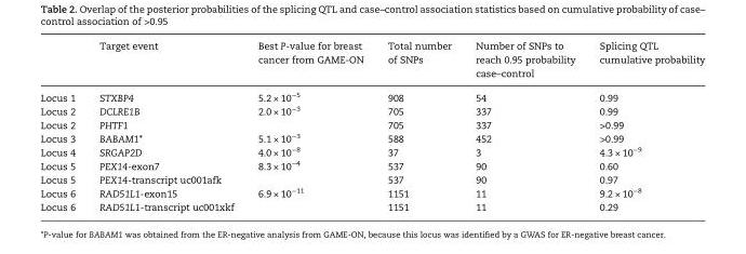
<table><thead><tr><td></td><td>Target event</td><td>Best P-value for breast cancer from GAME-ON</td><td>Total number of SNPs</td><td>Number of SNPs to reach 0.95 probability case–control</td><td>Splicing QTL cumulative probability</td></tr></thead><tbody><tr><td>Locus 1</td><td>STXBP4</td><td>5.2 × 10<sup>−5</sup></td><td>908</td><td>54</td><td>0.99</td></tr><tr><td>Locus 2</td><td>DCLRE1B</td><td>2.0 × 10<sup>−3</sup></td><td>705</td><td>337</td><td>0.99</td></tr><tr><td>Locus 2</td><td>PHTF1</td><td></td><td>705</td><td>337</td><td>&gt;0.99</td></tr><tr><td>Locus 3</td><td>BABAM1*</td><td>5.1 × 10<sup>−3</sup></td><td>588</td><td>452</td><td>&gt;0.99</td></tr><tr><td>Locus 4</td><td>SRGAP2D</td><td>4.0 × 10<sup>−8</sup></td><td>37</td><td>3</td><td>4.3 × 10<sup>−9</sup></td></tr><tr><td>Locus 5</td><td>PEX14-exon7</td><td>8.3 × 10<sup>−4</sup></td><td>537</td><td>90</td><td>0.60</td></tr><tr><td>Locus 5</td><td>PEX14-transcript uc001afk</td><td></td><td>537</td><td>90</td><td>0.97</td></tr><tr><td>Locus 6</td><td>RAD51L1-exon15</td><td>6.9 × 10<sup>−11</sup></td><td>1151</td><td>11</td><td>9.2 × 10<sup>−8</sup></td></tr><tr><td>Locus 6</td><td>RAD51L1-transcript uc001xkf</td><td></td><td>1151</td><td>11</td><td>0.29</td></tr></tbody></table>